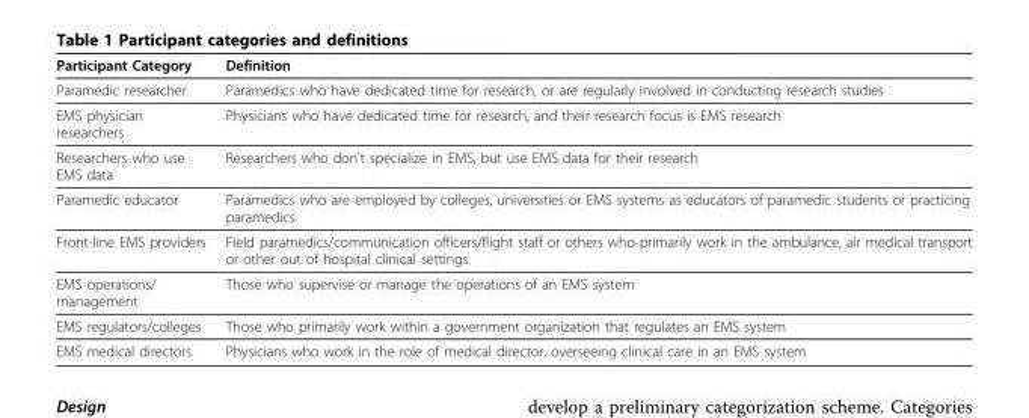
<table><thead><tr><td>Participant Category</td><td>Definition</td></tr></thead><tbody><tr><td>Paramedic researcher</td><td>Paramedics who have dedicated time for research, or are regularly involved in conducting research studies</td></tr><tr><td>EMS physician researchers</td><td>Physicians who have dedicated time for research, and their research focus is EMS research</td></tr><tr><td>Researchers who use EMS data</td><td>Researchers who don’t specialize in EMS, but use EMS data for their research</td></tr><tr><td>Paramedic educator</td><td>Paramedics who are employed by colleges, universities or EMS systems as educators of paramedic students or practicing paramedics</td></tr><tr><td>Front-line EMS providers</td><td>Field paramedics/communication officers/flight staff or others who primarily work in the ambulance, air medical transport or other out of hospital clinical settings.</td></tr><tr><td>EMS operations/ management</td><td>Those who supervise or manage the operations of an EMS system</td></tr><tr><td>EMS regulators/colleges</td><td>Those who primarily work within a government organization that regulates an EMS system</td></tr><tr><td>EMS medical directors</td><td>Physicians who work in the role of medical director, overseeing clinical care in an EMS system</td></tr></tbody></table>